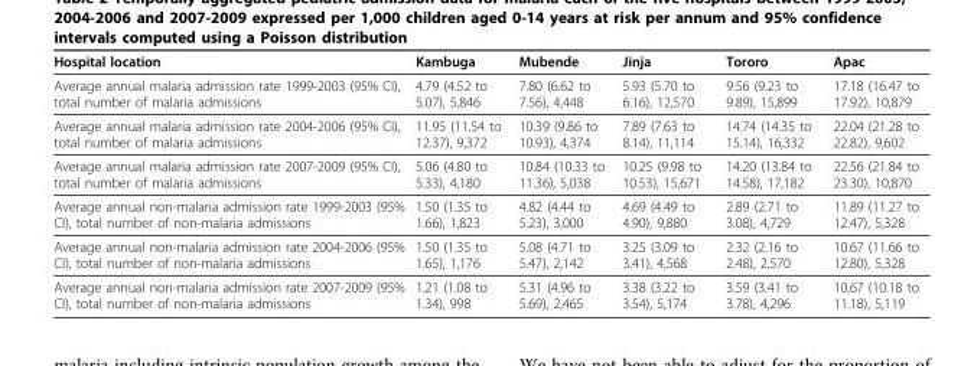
<table><thead><tr><td>Hospital location</td><td>Kambuga</td><td>Mubende</td><td>Jinja</td><td>Tororo</td><td>Apac</td></tr></thead><tbody><tr><td>Average annual malaria admission rate 1999-2003 (95% CI), total number of malaria admissions</td><td>4.79 (4.52 to 5.07), 5,846</td><td>7.80 (6.62 to 7.56), 4,448</td><td>5.93 (5.70 to 6.16), 12,570</td><td>9.56 (9.23 to 9.89), 15,899</td><td>17.18 (16.47 to 17.92), 10,879</td></tr><tr><td>Average annual malaria admission rate 2004-2006 (95% CI), total number of malaria admissions</td><td>11.95 (11.54 to 12.37), 9,372</td><td>10.39 (9.86 to 10.93), 4,374</td><td>7.89 (7.63 to 8.14), 11,114</td><td>14.74 (14.35 to 15.14), 16,332</td><td>22.04 (21.28 to 22.82), 9,602</td></tr><tr><td>Average annual malaria admission rate 2007-2009 (95% CI), total number of malaria admissions</td><td>5.06 (4.80 to 5.33), 4,180</td><td>10.84 (10.33 to 11.36), 5,038</td><td>10.25 (9.98 to 10.53), 15,671</td><td>14.20 (13.84 to 14.58), 17,182</td><td>22.56 (21.84 to 23.30), 10,870</td></tr><tr><td>Average annual non-malaria admission rate 1999-2003 (95% CI), total number of non-malaria admissions</td><td>1.50 (1.35 to 1.66), 1,823</td><td>4.82 (4.44 to 5.23), 3,000</td><td>4.69 (4.49 to 4.90), 9,880</td><td>2.89 (2.71 to 3.08), 4,729</td><td>11.89 (11.27 to 12.47), 5,328</td></tr><tr><td>Average annual non-malaria admission rate 2004-2006 (95% CI), total number of non-malaria admissions</td><td>1.50 (1.35 to 1.65), 1,176</td><td>5.08 (4.71 to 5.47), 2,142</td><td>3.25 (3.09 to 3.41), 4,568</td><td>2.32 (2.16 to 2.48), 2,570</td><td>10.67 (11.66 to 12.80), 5,328</td></tr><tr><td>Average annual non-malaria admission rate 2007-2009 (95% CI), total number of non-malaria admissions</td><td>1.21 (1.08 to 1.34), 998</td><td>5.31 (4.96 to 5.69), 2,465</td><td>3.38 (3.22 to 3.54), 5,174</td><td>3.59 (3.41 to 3.78), 4,296</td><td>10.67 (10.18 to 11.18), 5,119</td></tr></tbody></table>